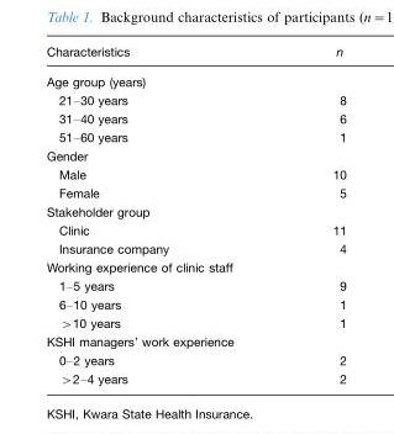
<table><thead><tr><td>Characteristics</td><td>n</td></tr></thead><tbody><tr><td colspan="2">Age group (years)</td></tr><tr><td>21–30 years</td><td>8</td></tr><tr><td>31–40 years</td><td>6</td></tr><tr><td>51–60 years</td><td>1</td></tr><tr><td colspan="2">Gender</td></tr><tr><td>Male</td><td>10</td></tr><tr><td>Female</td><td>5</td></tr><tr><td colspan="2">Stakeholder group</td></tr><tr><td>Clinic</td><td>11</td></tr><tr><td>Insurance company</td><td>4</td></tr><tr><td colspan="2">Working experience of clinic staff</td></tr><tr><td>1–5 years</td><td>9</td></tr><tr><td>6–10 years</td><td>1</td></tr><tr><td>&gt;10 years</td><td>1</td></tr><tr><td colspan="2">KSHI managers’ work experience</td></tr><tr><td>0–2 years</td><td>2</td></tr><tr><td>&gt;2–4 years</td><td>2</td></tr></tbody></table>